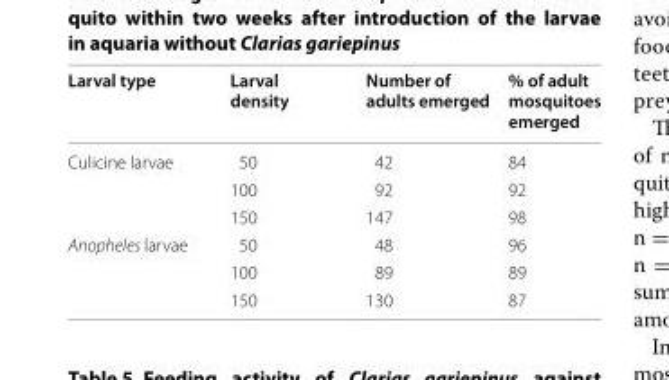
<table><thead><tr><td>Larval type</td><td>Larval density</td><td>Number of adults emerged</td><td>% of adult mosquitoes emerged</td></tr></thead><tbody><tr><td rowspan="3">Culicine larvae</td><td>50</td><td>42</td><td>84</td></tr><tr><td>100</td><td>92</td><td>92</td></tr><tr><td>150</td><td>147</td><td>98</td></tr><tr><td rowspan="3">Anopheles larvae</td><td>50</td><td>48</td><td>96</td></tr><tr><td>100</td><td>89</td><td>89</td></tr><tr><td>150</td><td>130</td><td>87</td></tr></tbody></table>